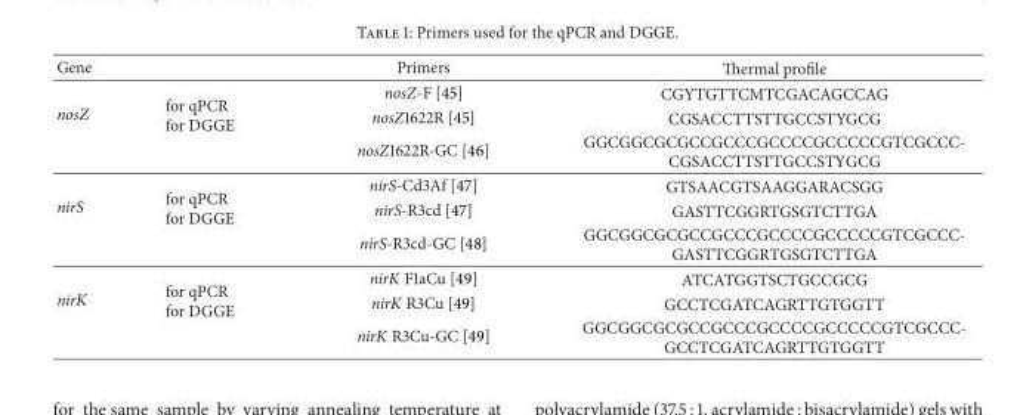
<table><thead><tr><td>Gene</td><td></td><td>Primers</td><td>Thermal profile</td></tr></thead><tbody><tr><td rowspan="3">nosZ</td><td rowspan="3">for qPCR for DGGE</td><td>nosZ-F [45]</td><td>CGYTGTTCMTCGACAGCCAG</td></tr><tr><td>nosZ1622R [45]</td><td>CGSACCTTSTTGCCSTYGCG</td></tr><tr><td>nosZ1622R-GC [46]</td><td>GGCGGCGCGCCGCCCGCCCCGCCCCCGTCGCCC- CGSACCTTSTTGCCSTYGCG</td></tr><tr><td rowspan="3">nirS</td><td rowspan="3">for qPCR for DGGE</td><td>nirS-Cd3Af [47]</td><td>GTSAACGTSAAGGARACSGG</td></tr><tr><td>nirS-R3cd [47]</td><td>GASTTCGGRTGSGTCTTGA</td></tr><tr><td>nirS-R3cd-GC [48]</td><td>GGCGGCGCGCCGCCCGCCCCGCCCCCGTCGCCC- GASTTCGGRTGSGTCTTGA</td></tr><tr><td rowspan="3">nirK</td><td rowspan="3">for qPCR for DGGE</td><td>nirK F1aCu [49]</td><td>ATCATGGTSCTGCCGCG</td></tr><tr><td>nirK R3Cu [49]</td><td>GCCTCGATCAGRTTGTGGTT</td></tr><tr><td>nirK R3Cu-GC [49]</td><td>GGCGGCGCGCCGCCCGCCCCGCCCCCGTCGCCC- GCCTCGATCAGRTTGTGGTT</td></tr></tbody></table>